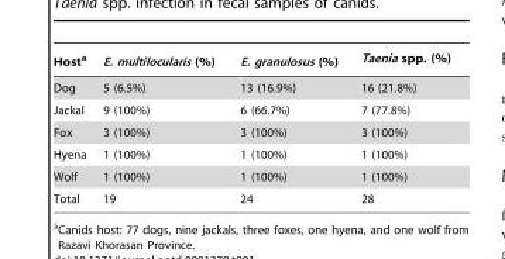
<table><thead><tr><td>Host<sup>a</sup></td><td>E. multilocularis (%)</td><td>E. granulosus (%)</td><td>Taenia spp. (%)</td></tr></thead><tbody><tr><td>Dog</td><td>5 (6.5%)</td><td>13 (16.9%)</td><td>16 (21.8%)</td></tr><tr><td>Jackal</td><td>9 (100%)</td><td>6 (66.7%)</td><td>7 (77.8%)</td></tr><tr><td>Fox</td><td>3 (100%)</td><td>3 (100%)</td><td>3 (100%)</td></tr><tr><td>Hyena</td><td>1 (100%)</td><td>1 (100%)</td><td>1 (100%)</td></tr><tr><td>Wolf</td><td>1 (100%)</td><td>1 (100%)</td><td>1 (100%)</td></tr><tr><td>Total</td><td>19</td><td>24</td><td>28</td></tr></tbody></table>